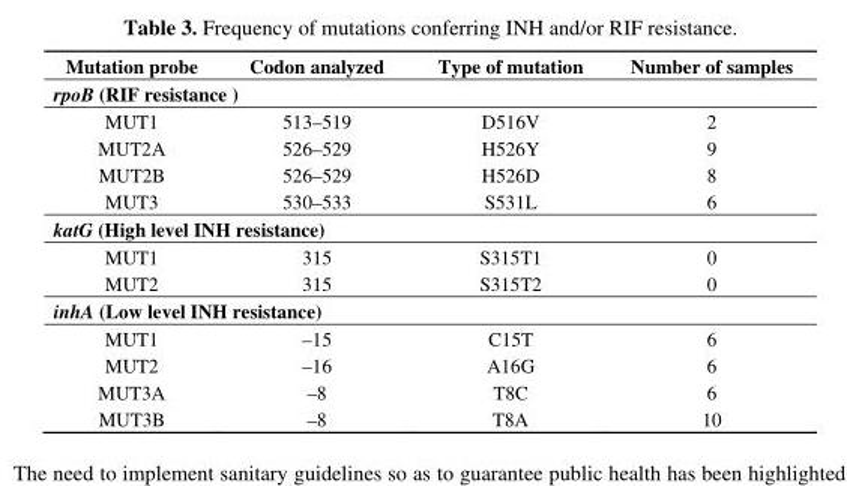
<table><thead><tr><td>Mutation probe</td><td>Codon analyzed</td><td>Type of mutation</td><td>Number of samples</td></tr></thead><tbody><tr><td colspan="4">rpoB (RIF resistance )</td></tr><tr><td>MUT1</td><td>513–519</td><td>D516V</td><td>2</td></tr><tr><td>MUT2A</td><td>526–529</td><td>H526Y</td><td>9</td></tr><tr><td>MUT2B</td><td>526–529</td><td>H526D</td><td>8</td></tr><tr><td>MUT3</td><td>530–533</td><td>S531L</td><td>6</td></tr><tr><td colspan="4">katG (High level INH resistance)</td></tr><tr><td>MUT1</td><td>315</td><td>S315T1</td><td>0</td></tr><tr><td>MUT2</td><td>315</td><td>S315T2</td><td>0</td></tr><tr><td colspan="4">inhA (Low level INH resistance)</td></tr><tr><td>MUT1</td><td>–15</td><td>C15T</td><td>6</td></tr><tr><td>MUT2</td><td>–16</td><td>A16G</td><td>6</td></tr><tr><td>MUT3A</td><td>–8</td><td>T8C</td><td>6</td></tr><tr><td>MUT3B</td><td>–8</td><td>T8A</td><td>10</td></tr></tbody></table>